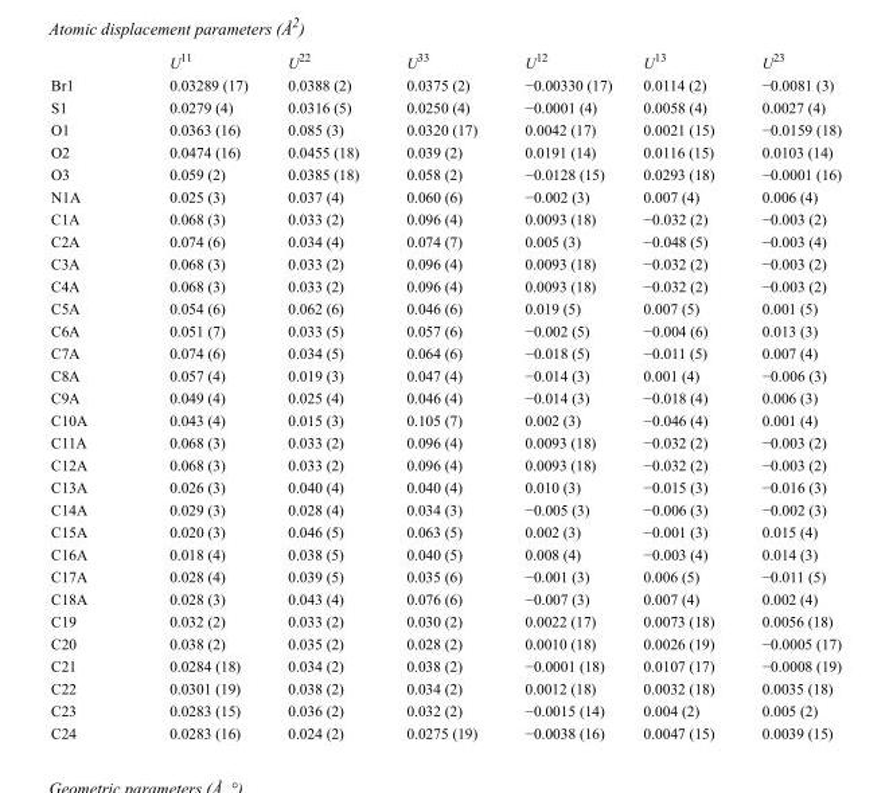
<table><thead><tr><td></td><td>U<sup>11</sup></td><td>U<sup>22</sup></td><td>U<sup>33</sup></td><td>U<sup>12</sup></td><td>U<sup>13</sup></td><td>U<sup>23</sup></td></tr></thead><tbody><tr><td>Br1</td><td>0.03289 (17)</td><td>0.0388 (2)</td><td>0.0375 (2)</td><td>−0.00330 (17)</td><td>0.0114 (2)</td><td>−0.0081 (3)</td></tr><tr><td>S1</td><td>0.0279 (4)</td><td>0.0316 (5)</td><td>0.0250 (4)</td><td>−0.0001 (4)</td><td>0.0058 (4)</td><td>0.0027 (4)</td></tr><tr><td>O1</td><td>0.0363 (16)</td><td>0.085 (3)</td><td>0.0320 (17)</td><td>0.0042 (17)</td><td>0.0021 (15)</td><td>−0.0159 (18)</td></tr><tr><td>O2</td><td>0.0474 (16)</td><td>0.0455 (18)</td><td>0.039 (2)</td><td>0.0191 (14)</td><td>0.0116 (15)</td><td>0.0103 (14)</td></tr><tr><td>O3</td><td>0.059 (2)</td><td>0.0385 (18)</td><td>0.058 (2)</td><td>−0.0128 (15)</td><td>0.0293 (18)</td><td>−0.0001 (16)</td></tr><tr><td>N1A</td><td>0.025 (3)</td><td>0.037 (4)</td><td>0.060 (6)</td><td>−0.002 (3)</td><td>0.007 (4)</td><td>0.006 (4)</td></tr><tr><td>C1A</td><td>0.068 (3)</td><td>0.033 (2)</td><td>0.096 (4)</td><td>0.0093 (18)</td><td>−0.032 (2)</td><td>−0.003 (2)</td></tr><tr><td>C2A</td><td>0.074 (6)</td><td>0.034 (4)</td><td>0.074 (7)</td><td>0.005 (3)</td><td>−0.048 (5)</td><td>−0.003 (4)</td></tr><tr><td>C3A</td><td>0.068 (3)</td><td>0.033 (2)</td><td>0.096 (4)</td><td>0.0093 (18)</td><td>−0.032 (2)</td><td>−0.003 (2)</td></tr><tr><td>C4A</td><td>0.068 (3)</td><td>0.033 (2)</td><td>0.096 (4)</td><td>0.0093 (18)</td><td>−0.032 (2)</td><td>−0.003 (2)</td></tr><tr><td>C5A</td><td>0.054 (6)</td><td>0.062 (6)</td><td>0.046 (6)</td><td>0.019 (5)</td><td>0.007 (5)</td><td>0.001 (5)</td></tr><tr><td>C6A</td><td>0.051 (7)</td><td>0.033 (5)</td><td>0.057 (6)</td><td>−0.002 (5)</td><td>−0.004 (6)</td><td>0.013 (3)</td></tr><tr><td>C7A</td><td>0.074 (6)</td><td>0.034 (5)</td><td>0.064 (6)</td><td>−0.018 (5)</td><td>−0.011 (5)</td><td>0.007 (4)</td></tr><tr><td>C8A</td><td>0.057 (4)</td><td>0.019 (3)</td><td>0.047 (4)</td><td>−0.014 (3)</td><td>0.001 (4)</td><td>−0.006 (3)</td></tr><tr><td>C9A</td><td>0.049 (4)</td><td>0.025 (4)</td><td>0.046 (4)</td><td>−0.014 (3)</td><td>−0.018 (4)</td><td>0.006 (3)</td></tr><tr><td>C10A</td><td>0.043 (4)</td><td>0.015 (3)</td><td>0.105 (7)</td><td>0.002 (3)</td><td>−0.046 (4)</td><td>0.001 (4)</td></tr><tr><td>C11A</td><td>0.068 (3)</td><td>0.033 (2)</td><td>0.096 (4)</td><td>0.0093 (18)</td><td>−0.032 (2)</td><td>−0.003 (2)</td></tr><tr><td>C12A</td><td>0.068 (3)</td><td>0.033 (2)</td><td>0.096 (4)</td><td>0.0093 (18)</td><td>−0.032 (2)</td><td>−0.003 (2)</td></tr><tr><td>C13A</td><td>0.026 (3)</td><td>0.040 (4)</td><td>0.040 (4)</td><td>0.010 (3)</td><td>−0.015 (3)</td><td>−0.016 (3)</td></tr><tr><td>C14A</td><td>0.029 (3)</td><td>0.028 (4)</td><td>0.034 (3)</td><td>−0.005 (3)</td><td>−0.006 (3)</td><td>−0.002 (3)</td></tr><tr><td>C15A</td><td>0.020 (3)</td><td>0.046 (5)</td><td>0.063 (5)</td><td>0.002 (3)</td><td>−0.001 (3)</td><td>0.015 (4)</td></tr><tr><td>C16A</td><td>0.018 (4)</td><td>0.038 (5)</td><td>0.040 (5)</td><td>0.008 (4)</td><td>−0.003 (4)</td><td>0.014 (3)</td></tr><tr><td>C17A</td><td>0.028 (4)</td><td>0.039 (5)</td><td>0.035 (6)</td><td>−0.001 (3)</td><td>0.006 (5)</td><td>−0.011 (5)</td></tr><tr><td>C18A</td><td>0.028 (3)</td><td>0.043 (4)</td><td>0.076 (6)</td><td>−0.007 (3)</td><td>0.007 (4)</td><td>0.002 (4)</td></tr><tr><td>C19</td><td>0.032 (2)</td><td>0.033 (2)</td><td>0.030 (2)</td><td>0.0022 (17)</td><td>0.0073 (18)</td><td>0.0056 (18)</td></tr><tr><td>C20</td><td>0.038 (2)</td><td>0.035 (2)</td><td>0.028 (2)</td><td>0.0010 (18)</td><td>0.0026 (19)</td><td>−0.0005 (17)</td></tr><tr><td>C21</td><td>0.0284 (18)</td><td>0.034 (2)</td><td>0.038 (2)</td><td>−0.0001 (18)</td><td>0.0107 (17)</td><td>−0.0008 (19)</td></tr><tr><td>C22</td><td>0.0301 (19)</td><td>0.038 (2)</td><td>0.034 (2)</td><td>0.0012 (18)</td><td>0.0032 (18)</td><td>0.0035 (18)</td></tr><tr><td>C23</td><td>0.0283 (15)</td><td>0.036 (2)</td><td>0.032 (2)</td><td>−0.0015 (14)</td><td>0.004 (2)</td><td>0.005 (2)</td></tr><tr><td>C24</td><td>0.0283 (16)</td><td>0.024 (2)</td><td>0.0275 (19)</td><td>−0.0038 (16)</td><td>0.0047 (15)</td><td>0.0039 (15)</td></tr></tbody></table>